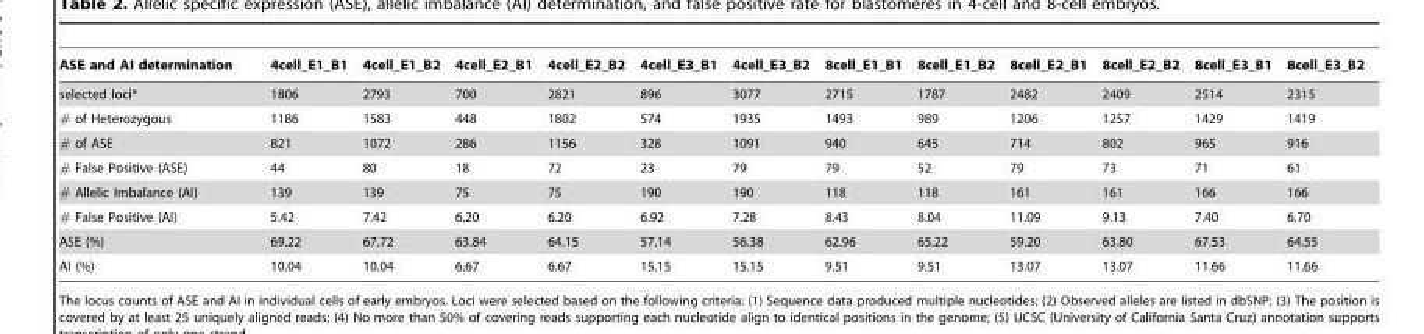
<table><thead><tr><td>ASE and AI determination</td><td>4cell_E1_B1</td><td>4cell_E1_B2</td><td>4cell_E2_B1</td><td>4cell_E2_B2</td><td>4cell_E3_B1</td><td>4cell_E3_B2</td><td>8cell_E1_B1</td><td>8cell_E1_B2</td><td>8cell_E2_B1</td><td>8cell_E2_B2</td><td>8cell_E3_B1</td><td>8cell_E3_B2</td></tr></thead><tbody><tr><td>selected loci*</td><td>1806</td><td>2793</td><td>700</td><td>2821</td><td>896</td><td>3077</td><td>2715</td><td>1787</td><td>2482</td><td>2409</td><td>2514</td><td>2315</td></tr><tr><td># of Heterozygous</td><td>1186</td><td>1583</td><td>448</td><td>1802</td><td>574</td><td>1935</td><td>1493</td><td>989</td><td>1206</td><td>1257</td><td>1429</td><td>1419</td></tr><tr><td># of ASE</td><td>821</td><td>1072</td><td>286</td><td>1156</td><td>328</td><td>1091</td><td>940</td><td>645</td><td>714</td><td>802</td><td>965</td><td>916</td></tr><tr><td># False Positive (ASE)</td><td>44</td><td>80</td><td>18</td><td>72</td><td>23</td><td>79</td><td>79</td><td>52</td><td>79</td><td>73</td><td>71</td><td>61</td></tr><tr><td># Allelic Imbalance (AI)</td><td>139</td><td>139</td><td>75</td><td>75</td><td>190</td><td>190</td><td>118</td><td>118</td><td>161</td><td>161</td><td>166</td><td>166</td></tr><tr><td># False Positive (AI)</td><td>5.42</td><td>7.42</td><td>6.20</td><td>6.20</td><td>6.92</td><td>7.28</td><td>8.43</td><td>8.04</td><td>11.09</td><td>9.13</td><td>7.40</td><td>6.70</td></tr><tr><td>ASE (%)</td><td>69.22</td><td>67.72</td><td>63.84</td><td>64.15</td><td>57.14</td><td>56.38</td><td>62.96</td><td>65.22</td><td>59.20</td><td>63.80</td><td>67.53</td><td>64.55</td></tr><tr><td>AI (%)</td><td>10.04</td><td>10.04</td><td>6.67</td><td>6.67</td><td>15.15</td><td>15.15</td><td>9.51</td><td>9.51</td><td>13.07</td><td>13.07</td><td>11.66</td><td>11.66</td></tr></tbody></table>